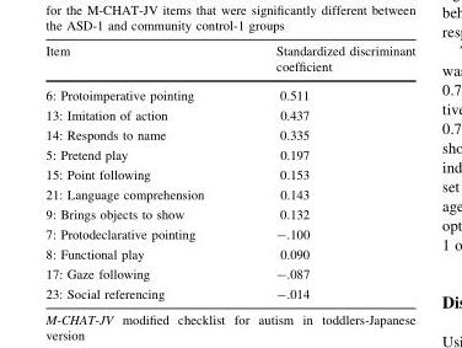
<table><thead><tr><td>Item</td><td>Standardized discriminant coefficient</td></tr></thead><tbody><tr><td>6: Protoimperative pointing</td><td>0.511</td></tr><tr><td>13: Imitation of action</td><td>0.437</td></tr><tr><td>14: Responds to name</td><td>0.335</td></tr><tr><td>5: Pretend play</td><td>0.197</td></tr><tr><td>15: Point following</td><td>0.153</td></tr><tr><td>21: Language comprehension</td><td>0.143</td></tr><tr><td>9: Brings objects to show</td><td>0.132</td></tr><tr><td>7: Protodeclarative pointing</td><td>-.100</td></tr><tr><td>8: Functional play</td><td>0.090</td></tr><tr><td>17: Gaze following</td><td>-.087</td></tr><tr><td>23: Social referencing</td><td>-.014</td></tr></tbody></table>